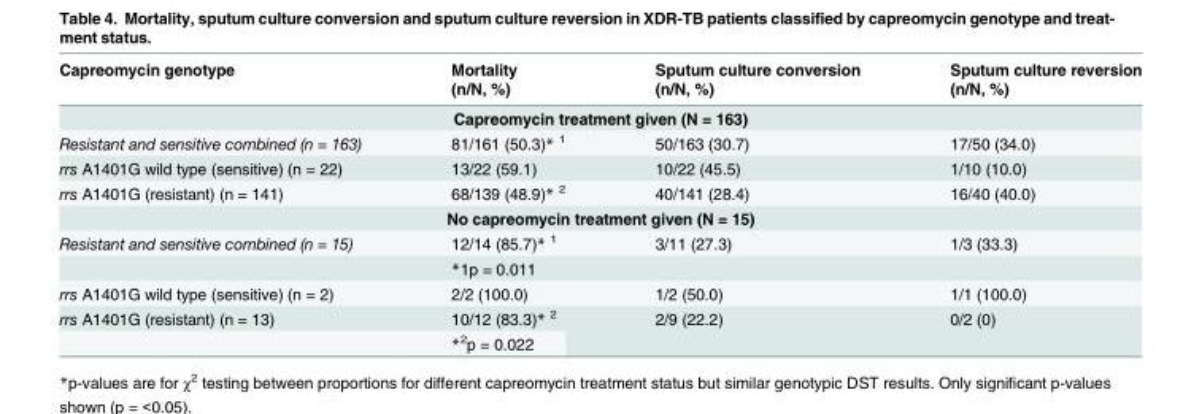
<table><thead><tr><td rowspan="2">Capreomycin genotype</td><td rowspan="2">Mortality (n/N, %)</td><td rowspan="2">Sputum culture conversion (n/N, %)</td><td rowspan="2">Sputum culture reversion (n/N, %)</td></tr><tr></tr></thead><tbody><tr><td colspan="4">Capreomycin treatment given (N = 163)</td></tr><tr><td>Resistant and sensitive combined (n = 163)</td><td>81/161 (50.3)* <sup>1</sup></td><td>50/163 (30.7)</td><td>17/50 (34.0)</td></tr><tr><td>rrs A1401G wild type (sensitive) (n = 22)</td><td>13/22 (59.1)</td><td>10/22 (45.5)</td><td>1/10 (10.0)</td></tr><tr><td>rrs A1401G (resistant) (n = 141)</td><td>68/139 (48.9)* <sup>2</sup></td><td>40/141 (28.4)</td><td>16/40 (40.0)</td></tr><tr><td colspan="4">No capreomycin treatment given (N = 15)</td></tr><tr><td rowspan="2">Resistant and sensitive combined (n = 15)</td><td>12/14 (85.7)* <sup>1</sup></td><td>3/11 (27.3)</td><td>1/3 (33.3)</td></tr><tr><td>*1p = 0.011</td><td></td><td></td></tr><tr><td>rrs A1401G wild type (sensitive) (n = 2)</td><td>2/2 (100.0)</td><td>1/2 (50.0)</td><td>1/1 (100.0)</td></tr><tr><td rowspan="2">rrs A1401G (resistant) (n = 13)</td><td>10/12 (83.3)* <sup>2</sup></td><td rowspan="2">2/9 (22.2)</td><td rowspan="2">0/2 (0)</td></tr><tr><td>*<sup>2</sup>p = 0.022</td></tr></tbody></table>